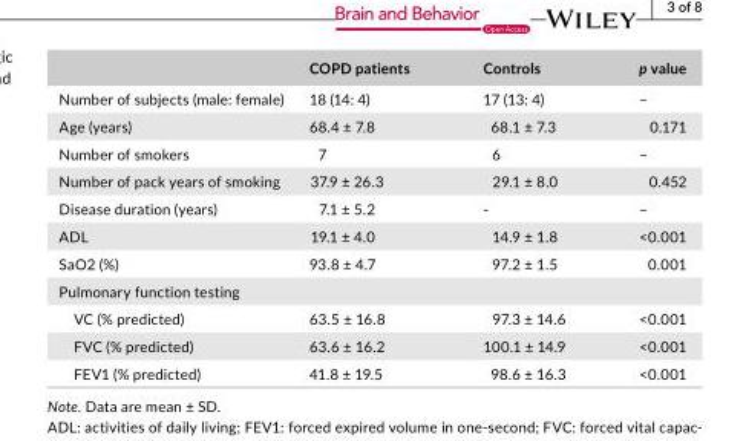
<table><thead><tr><td></td><td>COPD patients</td><td>Controls</td><td>p value</td></tr></thead><tbody><tr><td>Number of subjects (male: female)</td><td>18 (14: 4)</td><td>17 (13: 4)</td><td>–</td></tr><tr><td>Age (years)</td><td>68.4 ± 7.8</td><td>68.1 ± 7.3</td><td>0.171</td></tr><tr><td>Number of smokers</td><td>7</td><td>6</td><td>–</td></tr><tr><td>Number of pack years of smoking</td><td>37.9 ± 26.3</td><td>29.1 ± 8.0</td><td>0.452</td></tr><tr><td>Disease duration (years)</td><td>7.1 ± 5.2</td><td>-</td><td>–</td></tr><tr><td>ADL</td><td>19.1 ± 4.0</td><td>14.9 ± 1.8</td><td>&lt;0.001</td></tr><tr><td>SaO2 (%)</td><td>93.8 ± 4.7</td><td>97.2 ± 1.5</td><td>0.001</td></tr><tr><td colspan="4">Pulmonary function testing</td></tr><tr><td>VC (% predicted)</td><td>63.5 ± 16.8</td><td>97.3 ± 14.6</td><td>&lt;0.001</td></tr><tr><td>FVC (% predicted)</td><td>63.6 ± 16.2</td><td>100.1 ± 14.9</td><td>&lt;0.001</td></tr><tr><td>FEV1 (% predicted)</td><td>41.8 ± 19.5</td><td>98.6 ± 16.3</td><td>&lt;0.001</td></tr></tbody></table>